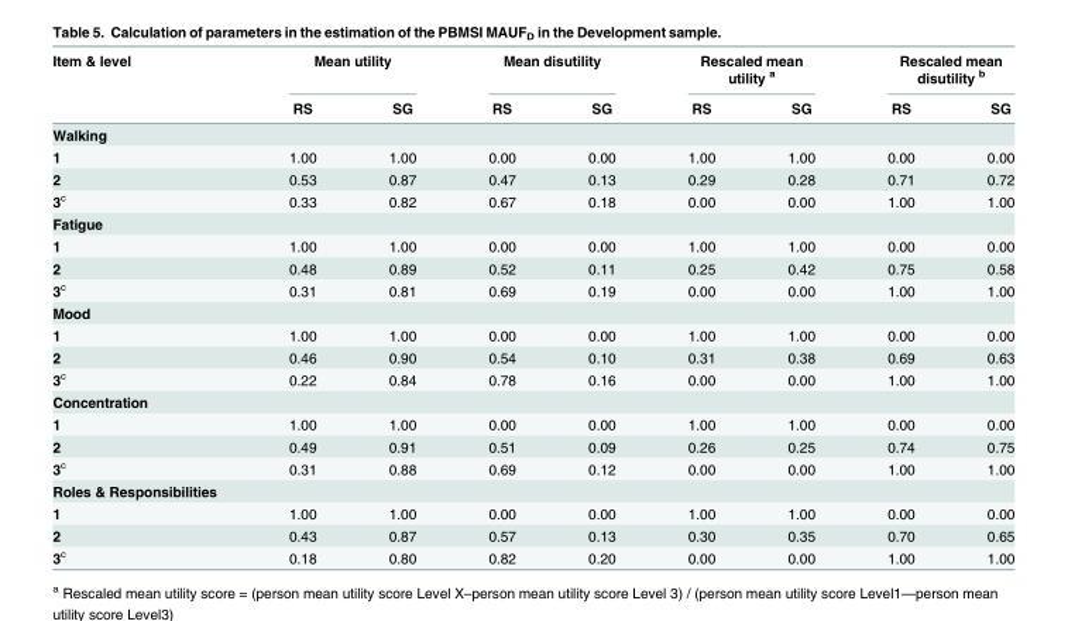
<table><thead><tr><td rowspan="2">Item &amp; level</td><td colspan="2">Mean utility</td><td colspan="2">Mean disutility</td><td colspan="2">Rescaled mean utility <sup>a</sup></td><td colspan="2">Rescaled mean disutility <sup>b</sup></td></tr><tr><td>RS</td><td>SG</td><td>RS</td><td>SG</td><td>RS</td><td>SG</td><td>RS</td><td>SG</td></tr></thead><tbody><tr><td colspan="9">Walking</td></tr><tr><td>1</td><td>1.00</td><td>1.00</td><td>0.00</td><td>0.00</td><td>1.00</td><td>1.00</td><td>0.00</td><td>0.00</td></tr><tr><td>2</td><td>0.53</td><td>0.87</td><td>0.47</td><td>0.13</td><td>0.29</td><td>0.28</td><td>0.71</td><td>0.72</td></tr><tr><td>3<sup>c</sup></td><td>0.33</td><td>0.82</td><td>0.67</td><td>0.18</td><td>0.00</td><td>0.00</td><td>1.00</td><td>1.00</td></tr><tr><td colspan="9">Fatigue</td></tr><tr><td>1</td><td>1.00</td><td>1.00</td><td>0.00</td><td>0.00</td><td>1.00</td><td>1.00</td><td>0.00</td><td>0.00</td></tr><tr><td>2</td><td>0.48</td><td>0.89</td><td>0.52</td><td>0.11</td><td>0.25</td><td>0.42</td><td>0.75</td><td>0.58</td></tr><tr><td>3<sup>c</sup></td><td>0.31</td><td>0.81</td><td>0.69</td><td>0.19</td><td>0.00</td><td>0.00</td><td>1.00</td><td>1.00</td></tr><tr><td colspan="9">Mood</td></tr><tr><td>1</td><td>1.00</td><td>1.00</td><td>0.00</td><td>0.00</td><td>1.00</td><td>1.00</td><td>0.00</td><td>0.00</td></tr><tr><td>2</td><td>0.46</td><td>0.90</td><td>0.54</td><td>0.10</td><td>0.31</td><td>0.38</td><td>0.69</td><td>0.63</td></tr><tr><td>3<sup>c</sup></td><td>0.22</td><td>0.84</td><td>0.78</td><td>0.16</td><td>0.00</td><td>0.00</td><td>1.00</td><td>1.00</td></tr><tr><td colspan="9">Concentration</td></tr><tr><td>1</td><td>1.00</td><td>1.00</td><td>0.00</td><td>0.00</td><td>1.00</td><td>1.00</td><td>0.00</td><td>0.00</td></tr><tr><td>2</td><td>0.49</td><td>0.91</td><td>0.51</td><td>0.09</td><td>0.26</td><td>0.25</td><td>0.74</td><td>0.75</td></tr><tr><td>3<sup>c</sup></td><td>0.31</td><td>0.88</td><td>0.69</td><td>0.12</td><td>0.00</td><td>0.00</td><td>1.00</td><td>1.00</td></tr><tr><td colspan="9">Roles &amp; Responsibilities</td></tr><tr><td>1</td><td>1.00</td><td>1.00</td><td>0.00</td><td>0.00</td><td>1.00</td><td>1.00</td><td>0.00</td><td>0.00</td></tr><tr><td>2</td><td>0.43</td><td>0.87</td><td>0.57</td><td>0.13</td><td>0.30</td><td>0.35</td><td>0.70</td><td>0.65</td></tr><tr><td>3<sup>c</sup></td><td>0.18</td><td>0.80</td><td>0.82</td><td>0.20</td><td>0.00</td><td>0.00</td><td>1.00</td><td>1.00</td></tr></tbody></table>